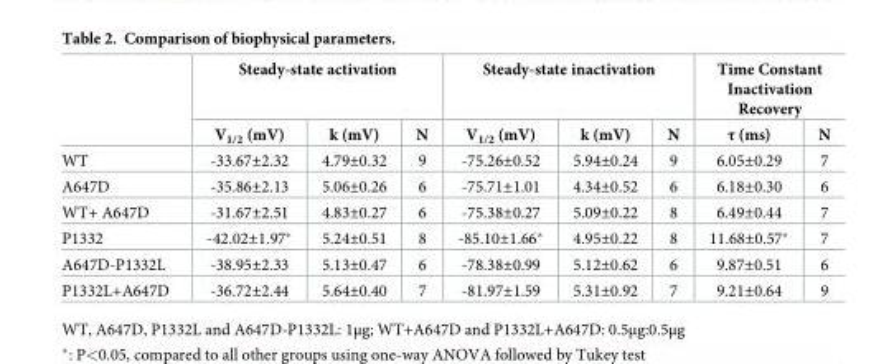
<table><thead><tr><td rowspan="2"></td><td colspan="3">Steady-state activation</td><td colspan="3">Steady-state inactivation</td><td colspan="2">Time Constant Inactivation Recovery</td></tr><tr><td>V<sub>1/2</sub> (mV)</td><td>k (mV)</td><td>N</td><td>V<sub>1/2</sub> (mV)</td><td>k (mV)</td><td>N</td><td>τ (ms)</td><td>N</td></tr></thead><tbody><tr><td>WT</td><td>-33.67±2.32</td><td>4.79±0.32</td><td>9</td><td>-75.26±0.52</td><td>5.94±0.24</td><td>9</td><td>6.05±0.29</td><td>7</td></tr><tr><td>A647D</td><td>-35.86±2.13</td><td>5.06±0.26</td><td>6</td><td>-75.71±1.01</td><td>4.34±0.52</td><td>6</td><td>6.18±0.30</td><td>6</td></tr><tr><td>WT+ A647D</td><td>-31.67±2.51</td><td>4.83±0.27</td><td>6</td><td>-75.38±0.27</td><td>5.09±0.22</td><td>8</td><td>6.49±0.44</td><td>7</td></tr><tr><td>P1332</td><td>-42.02±1.97*</td><td>5.24±0.51</td><td>8</td><td>-85.10±1.66*</td><td>4.95±0.22</td><td>8</td><td>11.68±0.57*</td><td>7</td></tr><tr><td>A647D-P1332L</td><td>-38.95±2.33</td><td>5.13±0.47</td><td>6</td><td>-78.38±0.99</td><td>5.12±0.62</td><td>6</td><td>9.87±0.51</td><td>6</td></tr><tr><td>P1332L+A647D</td><td>-36.72±2.44</td><td>5.64±0.40</td><td>7</td><td>-81.97±1.59</td><td>5.31±0.92</td><td>7</td><td>9.21±0.64</td><td>9</td></tr></tbody></table>